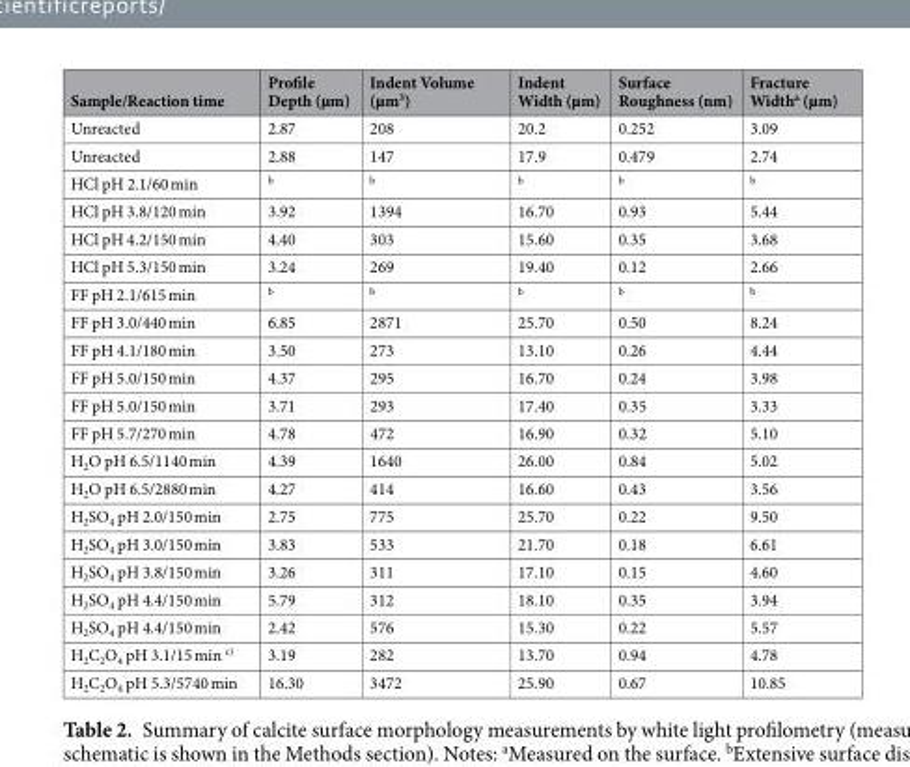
<table><thead><tr><td>Sample/Reaction time</td><td>Profile Depth (µm)</td><td>Indent Volume (µm<sup>3</sup>)</td><td>Indent Width (µm)</td><td>Surface Roughness (nm)</td><td>Fracture Width<sup>a</sup> (µm)</td></tr></thead><tbody><tr><td>Unreacted</td><td>2.87</td><td>208</td><td>20.2</td><td>0.252</td><td>3.09</td></tr><tr><td>Unreacted</td><td>2.88</td><td>147</td><td>17.9</td><td>0.479</td><td>2.74</td></tr><tr><td>HCl pH 2.1/60 min</td><td><sup>b</sup></td><td><sup>b</sup></td><td><sup>b</sup></td><td><sup>b</sup></td><td><sup>b</sup></td></tr><tr><td>HCl pH 3.8/120 min</td><td>3.92</td><td>1394</td><td>16.70</td><td>0.93</td><td>5.44</td></tr><tr><td>HCl pH 4.2/150 min</td><td>4.40</td><td>303</td><td>15.60</td><td>0.35</td><td>3.68</td></tr><tr><td>HCl pH 5.3/150 min</td><td>3.24</td><td>269</td><td>19.40</td><td>0.12</td><td>2.66</td></tr><tr><td>FF pH 2.1/615 min</td><td><sup>b</sup></td><td><sup>b</sup></td><td><sup>b</sup></td><td><sup>b</sup></td><td><sup>b</sup></td></tr><tr><td>FF pH 3.0/440 min</td><td>6.85</td><td>2871</td><td>25.70</td><td>0.50</td><td>8.24</td></tr><tr><td>FF pH 4.1/180 min</td><td>3.50</td><td>273</td><td>13.10</td><td>0.26</td><td>4.44</td></tr><tr><td>FF pH 5.0/150 min</td><td>4.37</td><td>295</td><td>16.70</td><td>0.24</td><td>3.98</td></tr><tr><td>FF pH 5.0/150 min</td><td>3.71</td><td>293</td><td>17.40</td><td>0.35</td><td>3.33</td></tr><tr><td>FF pH 5.7/270 min</td><td>4.78</td><td>472</td><td>16.90</td><td>0.32</td><td>5.10</td></tr><tr><td>H<sub>2</sub>O pH 6.5/1140 min</td><td>4.39</td><td>1640</td><td>26.00</td><td>0.84</td><td>5.02</td></tr><tr><td>H<sub>2</sub>O pH 6.5/2880 min</td><td>4.27</td><td>414</td><td>16.60</td><td>0.43</td><td>3.56</td></tr><tr><td>H<sub>2</sub>SO<sub>4</sub> pH 2.0/150 min</td><td>2.75</td><td>775</td><td>25.70</td><td>0.22</td><td>9.50</td></tr><tr><td>H<sub>2</sub>SO<sub>4</sub> pH 3.0/150 min</td><td>3.83</td><td>533</td><td>21.70</td><td>0.18</td><td>6.61</td></tr><tr><td>H<sub>2</sub>SO<sub>4</sub> pH 3.8/150 min</td><td>3.26</td><td>311</td><td>17.10</td><td>0.15</td><td>4.60</td></tr><tr><td>H<sub>2</sub>SO<sub>4</sub> pH 4.4/150 min</td><td>5.79</td><td>312</td><td>18.10</td><td>0.35</td><td>3.94</td></tr><tr><td>H<sub>2</sub>SO<sub>4</sub> pH 4.4/150 min</td><td>2.42</td><td>576</td><td>15.30</td><td>0.22</td><td>5.57</td></tr><tr><td>H<sub>2</sub>C<sub>2</sub>O<sub>4</sub> pH 3.1/15 min <sup>c)</sup></td><td>3.19</td><td>282</td><td>13.70</td><td>0.94</td><td>4.78</td></tr><tr><td>H<sub>2</sub>C<sub>2</sub>O<sub>4</sub> pH 5.3/5740 min</td><td>16.30</td><td>3472</td><td>25.90</td><td>0.67</td><td>10.85</td></tr></tbody></table>